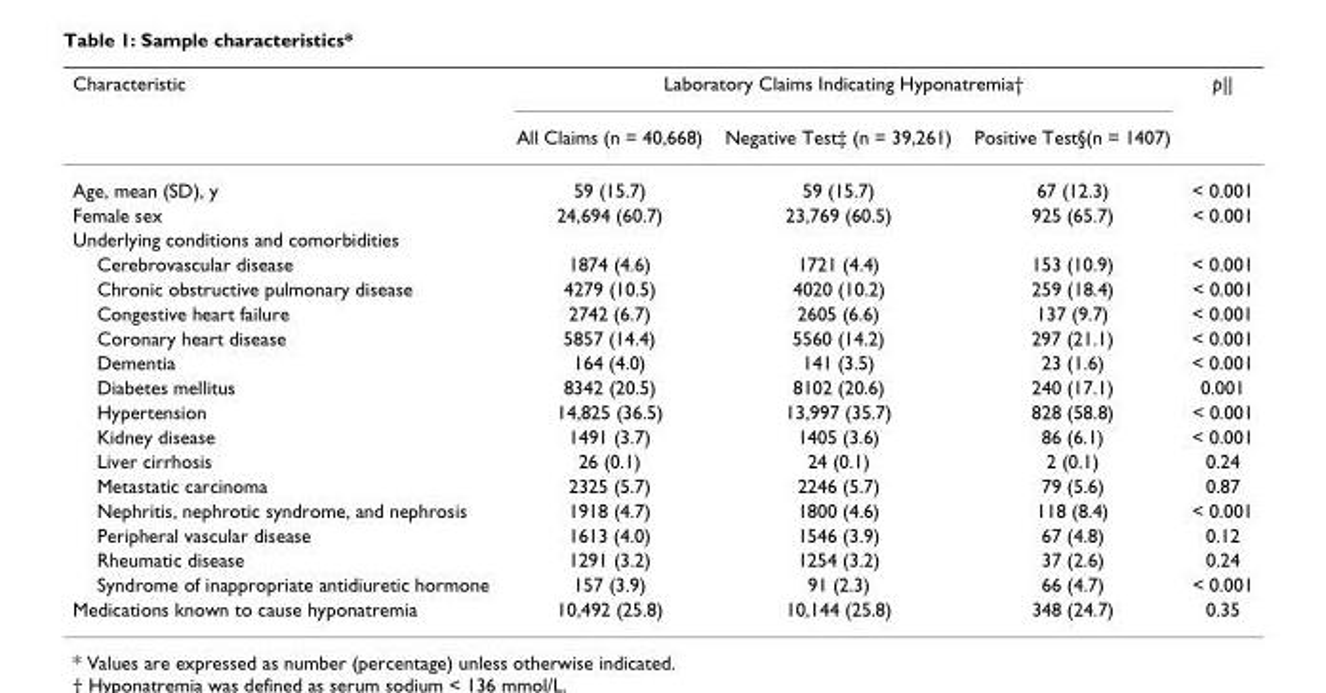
<table><thead><tr><td rowspan="2">Characteristic</td><td colspan="3">Laboratory Claims Indicating Hyponatremia†</td><td rowspan="2">p||</td></tr><tr><td>All Claims (n = 40,668)</td><td>Negative Test‡ (n = 39,261)</td><td>Positive Test§(n = 1407)</td></tr></thead><tbody><tr><td>Age, mean (SD), y</td><td>59 (15.7)</td><td>59 (15.7)</td><td>67 (12.3)</td><td>&lt; 0.001</td></tr><tr><td>Female sex</td><td>24,694 (60.7)</td><td>23,769 (60.5)</td><td>925 (65.7)</td><td>&lt; 0.001</td></tr><tr><td colspan="5">Underlying conditions and comorbidities</td></tr><tr><td>Cerebrovascular disease</td><td>1874 (4.6)</td><td>1721 (4.4)</td><td>153 (10.9)</td><td>&lt; 0.001</td></tr><tr><td>Chronic obstructive pulmonary disease</td><td>4279 (10.5)</td><td>4020 (10.2)</td><td>259 (18.4)</td><td>&lt; 0.001</td></tr><tr><td>Congestive heart failure</td><td>2742 (6.7)</td><td>2605 (6.6)</td><td>137 (9.7)</td><td>&lt; 0.001</td></tr><tr><td>Coronary heart disease</td><td>5857 (14.4)</td><td>5560 (14.2)</td><td>297 (21.1)</td><td>&lt; 0.001</td></tr><tr><td>Dementia</td><td>164 (4.0)</td><td>141 (3.5)</td><td>23 (1.6)</td><td>&lt; 0.001</td></tr><tr><td>Diabetes mellitus</td><td>8342 (20.5)</td><td>8102 (20.6)</td><td>240 (17.1)</td><td>0.001</td></tr><tr><td>Hypertension</td><td>14,825 (36.5)</td><td>13,997 (35.7)</td><td>828 (58.8)</td><td>&lt; 0.001</td></tr><tr><td>Kidney disease</td><td>1491 (3.7)</td><td>1405 (3.6)</td><td>86 (6.1)</td><td>&lt; 0.001</td></tr><tr><td>Liver cirrhosis</td><td>26 (0.1)</td><td>24 (0.1)</td><td>2 (0.1)</td><td>0.24</td></tr><tr><td>Metastatic carcinoma</td><td>2325 (5.7)</td><td>2246 (5.7)</td><td>79 (5.6)</td><td>0.87</td></tr><tr><td>Nephritis, nephrotic syndrome, and nephrosis</td><td>1918 (4.7)</td><td>1800 (4.6)</td><td>118 (8.4)</td><td>&lt; 0.001</td></tr><tr><td>Peripheral vascular disease</td><td>1613 (4.0)</td><td>1546 (3.9)</td><td>67 (4.8)</td><td>0.12</td></tr><tr><td>Rheumatic disease</td><td>1291 (3.2)</td><td>1254 (3.2)</td><td>37 (2.6)</td><td>0.24</td></tr><tr><td>Syndrome of inappropriate antidiuretic hormone</td><td>157 (3.9)</td><td>91 (2.3)</td><td>66 (4.7)</td><td>&lt; 0.001</td></tr><tr><td>Medications known to cause hyponatremia</td><td>10,492 (25.8)</td><td>10,144 (25.8)</td><td>348 (24.7)</td><td>0.35</td></tr></tbody></table>